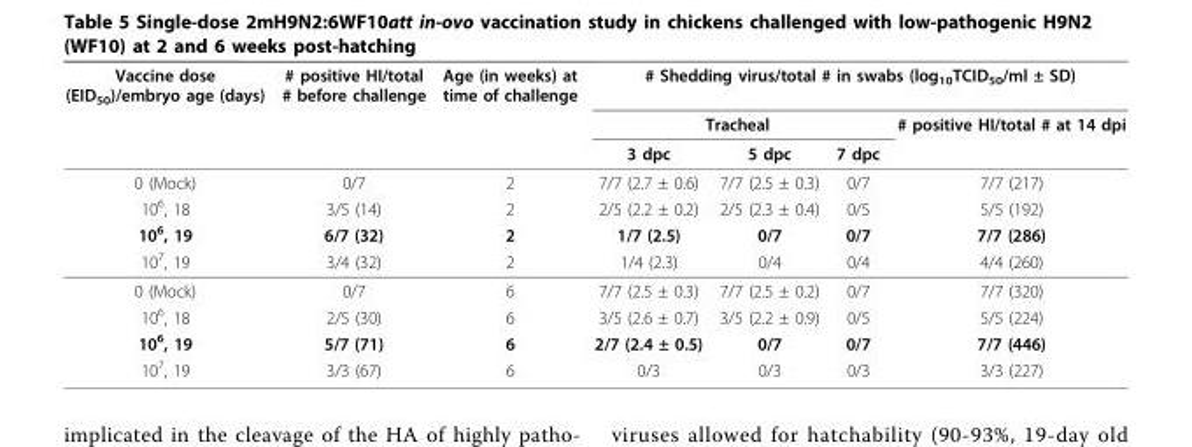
<table><thead><tr><td rowspan="3">Vaccine dose (EID<sub>50</sub>)/embryo age (days)</td><td rowspan="3"># positive HI/total # before challenge</td><td rowspan="3">Age (in weeks) at time of challenge</td><td colspan="4"># Shedding virus/total # in swabs (log<sub>10</sub>TCID<sub>50</sub>/ml ± SD)</td></tr><tr><td colspan="3">Tracheal</td><td rowspan="2"># positive HI/total # at 14 dpi</td></tr><tr><td>3 dpc</td><td>5 dpc</td><td>7 dpc</td></tr></thead><tbody><tr><td>0 (Mock)</td><td>0/7</td><td>2</td><td>7/7 (2.7 ± 0.6)</td><td>7/7 (2.5 ± 0.3)</td><td>0/7</td><td>7/7 (217)</td></tr><tr><td>10<sup>6</sup>, 18</td><td>3/5 (14)</td><td>2</td><td>2/5 (2.2 ± 0.2)</td><td>2/5 (2.3 ± 0.4)</td><td>0/5</td><td>5/5 (192)</td></tr><tr><td>10<sup>6</sup>, 19</td><td>6/7 (32)</td><td>2</td><td>1/7 (2.5)</td><td>0/7</td><td>0/7</td><td>7/7 (286)</td></tr><tr><td>10<sup>7</sup>, 19</td><td>3/4 (32)</td><td>2</td><td>1/4 (2.3)</td><td>0/4</td><td>0/4</td><td>4/4 (260)</td></tr><tr><td>0 (Mock)</td><td>0/7</td><td>6</td><td>7/7 (2.5 ± 0.3)</td><td>7/7 (2.5 ± 0.2)</td><td>0/7</td><td>7/7 (320)</td></tr><tr><td>10<sup>6</sup>, 18</td><td>2/5 (30)</td><td>6</td><td>3/5 (2.6 ± 0.7)</td><td>3/5 (2.2 ± 0.9)</td><td>0/5</td><td>5/5 (224)</td></tr><tr><td>10<sup>6</sup>, 19</td><td>5/7 (71)</td><td>6</td><td>2/7 (2.4 ± 0.5)</td><td>0/7</td><td>0/7</td><td>7/7 (446)</td></tr><tr><td>10<sup>7</sup>, 19</td><td>3/3 (67)</td><td>6</td><td>0/3</td><td>0/3</td><td>0/3</td><td>3/3 (227)</td></tr></tbody></table>